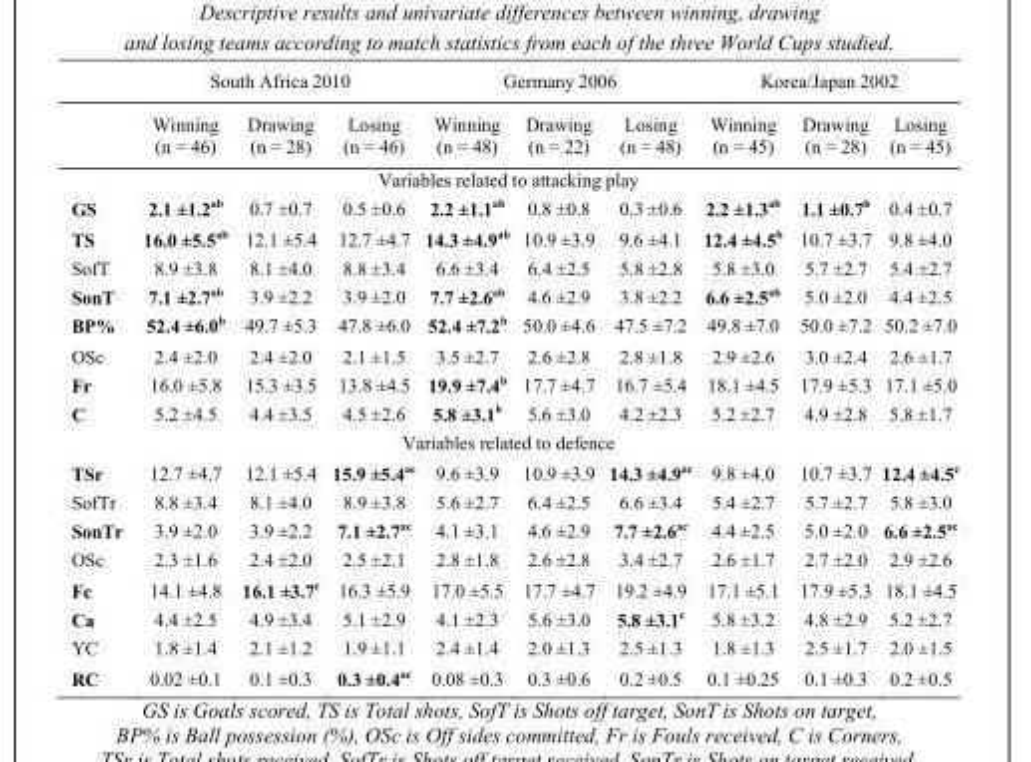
<table><thead><tr><td rowspan="2"></td><td colspan="3">South Africa 2010</td><td colspan="3">Germany 2006</td><td colspan="3">Korea/Japan 2002</td></tr><tr><td>Winning (n = 46)</td><td>Drawing (n = 28)</td><td>Losing (n = 46)</td><td>Winning (n = 48)</td><td>Drawing (n = 22)</td><td>Losing (n = 48)</td><td>Winning (n = 45)</td><td>Drawing (n = 28)</td><td>Losing (n = 45)</td></tr></thead><tbody><tr><td colspan="10">Variables related to attacking play</td></tr><tr><td>GS</td><td>2.1 ±1.2<sup>ab</sup></td><td>0.7 ±0.7</td><td>0.5 ±0.6</td><td>2.2 ±1.1<sup>ab</sup></td><td>0.8 ±0.8</td><td>0.3 ±0.6</td><td>2.2 ±1.3<sup>ab</sup></td><td>1.1 ±0.7<sup>b</sup></td><td>0.4 ±0.7</td></tr><tr><td>TS</td><td>16.0 ±5.5<sup>ab</sup></td><td>12.1 ±5.4</td><td>12.7 ±4.7</td><td>14.3 ±4.9<sup>ab</sup></td><td>10.9 ±3.9</td><td>9.6 ±4.1</td><td>12.4 ±4.5<sup>b</sup></td><td>10.7 ±3.7</td><td>9.8 ±4.0</td></tr><tr><td>SofT</td><td>8.9 ±3.8</td><td>8.1 ±4.0</td><td>8.8 ±3.4</td><td>6.6 ±3.4</td><td>6.4 ±2.5</td><td>5.8 ±2.8</td><td>5.8 ±3.0</td><td>5.7 ±2.7</td><td>5.4 ±2.7</td></tr><tr><td>SonT</td><td>7.1 ±2.7<sup>ab</sup></td><td>3.9 ±2.2</td><td>3.9 ±2.0</td><td>7.7 ±2.6<sup>ab</sup></td><td>4.6 ±2.9</td><td>3.8 ±2.2</td><td>6.6 ±2.5<sup>ab</sup></td><td>5.0 ±2.0</td><td>4.4 ±2.5</td></tr><tr><td>BP%</td><td>52.4 ±6.0<sup>b</sup></td><td>49.7 ±5.3</td><td>47.8 ±6.0</td><td>52.4 ±7.2<sup>b</sup></td><td>50.0 ±4.6</td><td>47.5 ±7.2</td><td>49.8 ±7.0</td><td>50.0 ±7.2</td><td>50.2 ±7.0</td></tr><tr><td>OSc</td><td>2.4 ±2.0</td><td>2.4 ±2.0</td><td>2.1 ±1.5</td><td>3.5 ±2.7</td><td>2.6 ±2.8</td><td>2.8 ±1.8</td><td>2.9 ±2.6</td><td>3.0 ±2.4</td><td>2.6 ±1.7</td></tr><tr><td>Fr</td><td>16.0 ±5.8</td><td>15.3 ±3.5</td><td>13.8 ±4.5</td><td>19.9 ±7.4<sup>b</sup></td><td>17.7 ±4.7</td><td>16.7 ±5.4</td><td>18.1 ±4.5</td><td>17.9 ±5.3</td><td>17.1 ±5.0</td></tr><tr><td>C</td><td>5.2 ±4.5</td><td>4.4 ±3.5</td><td>4.5 ±2.6</td><td>5.8 ±3.1<sup>b</sup></td><td>5.6 ±3.0</td><td>4.2 ±2.3</td><td>5.2 ±2.7</td><td>4.9 ±2.8</td><td>5.8 ±1.7</td></tr><tr><td colspan="10">Variables related to defence</td></tr><tr><td>TSr</td><td>12.7 ±4.7</td><td>12.1 ±5.4</td><td>15.9 ±5.4<sup>ac</sup></td><td>9.6 ±3.9</td><td>10.9 ±3.9</td><td>14.3 ±4.9<sup>ac</sup></td><td>9.8 ±4.0</td><td>10.7 ±3.7</td><td>12.4 ±4.5<sup>c</sup></td></tr><tr><td>SofTr</td><td>8.8 ±3.4</td><td>8.1 ±4.0</td><td>8.9 ±3.8</td><td>5.6 ±2.7</td><td>6.4 ±2.5</td><td>6.6 ±3.4</td><td>5.4 ±2.7</td><td>5.7 ±2.7</td><td>5.8 ±3.0</td></tr><tr><td>SonTr</td><td>3.9 ±2.0</td><td>3.9 ±2.2</td><td>7.1 ±2.7<sup>ac</sup></td><td>4.1 ±3.1</td><td>4.6 ±2.9</td><td>7.7 ±2.6<sup>ac</sup></td><td>4.4 ±2.5</td><td>5.0 ±2.0</td><td>6.6 ±2.5<sup>ac</sup></td></tr><tr><td>OSc</td><td>2.3 ±1.6</td><td>2.4 ±2.0</td><td>2.5 ±2.1</td><td>2.8 ±1.8</td><td>2.6 ±2.8</td><td>3.4 ±2.7</td><td>2.6 ±1.7</td><td>2.7 ±2.0</td><td>2.9 ±2.6</td></tr><tr><td>Fc</td><td>14.1 ±4.8</td><td>16.1 ±3.7<sup>c</sup></td><td>16.3 ±5.9</td><td>17.0 ±5.5</td><td>17.7 ±4.7</td><td>19.2 ±4.9</td><td>17.1 ±5.1</td><td>17.9 ±5.3</td><td>18.1 ±4.5</td></tr><tr><td>Ca</td><td>4.4 ±2.5</td><td>4.9 ±3.4</td><td>5.1 ±2.9</td><td>4.1 ±2.3</td><td>5.6 ±3.0</td><td>5.8 ±3.1<sup>c</sup></td><td>5.8 ±3.2</td><td>4.8 ±2.9</td><td>5.2 ±2.7</td></tr><tr><td>YC</td><td>1.8 ±1.4</td><td>2.1 ±1.2</td><td>1.9 ±1.1</td><td>2.4 ±1.4</td><td>2.0 ±1.3</td><td>2.5 ±1.3</td><td>1.8 ±1.3</td><td>2.5 ±1.7</td><td>2.0 ±1.5</td></tr><tr><td>RC</td><td>0.02 ±0.1</td><td>0.1 ±0.3</td><td>0.3 ±0.4<sup>ac</sup></td><td>0.08 ±0.3</td><td>0.3 ±0.6</td><td>0.2 ±0.5</td><td>0.1 ±0.25</td><td>0.1 ±0.3</td><td>0.2 ±0.5</td></tr></tbody></table>